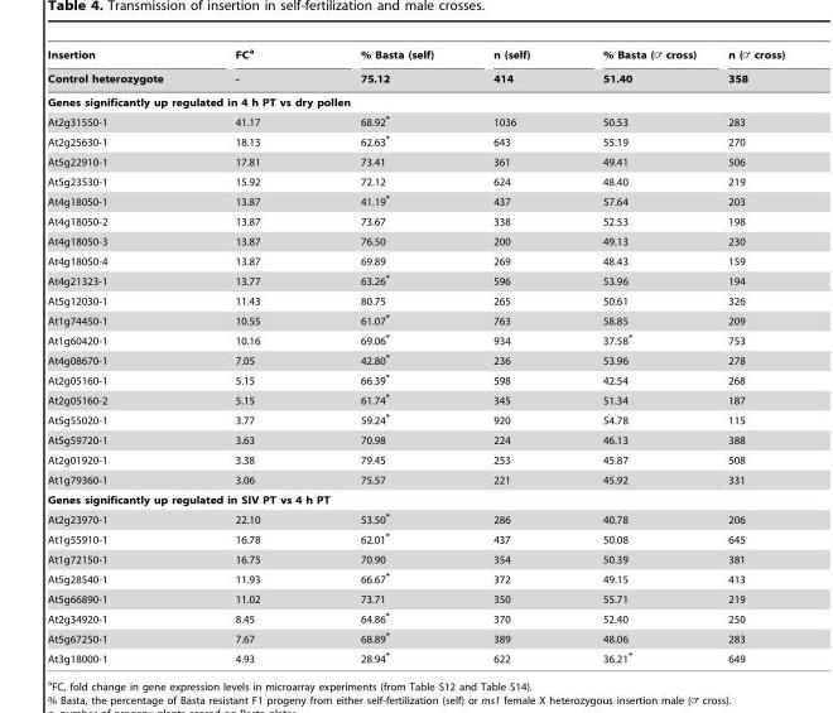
<table><thead><tr><td rowspan="2">Insertion Control heterozygote</td><td rowspan="2">FC<sup>a</sup> -</td><td rowspan="2">% Basta (self) 75.12</td><td rowspan="2">n (self) 414</td><td rowspan="2">% Basta (= cross) 51.40</td><td rowspan="2">n (= cross) 358</td></tr><tr></tr></thead><tbody><tr><td colspan="6">Genes significantly up regulated in 4 h PT vs dry pollen</td></tr><tr><td>At2g31550-1</td><td>41.17</td><td>68.92*</td><td>1036</td><td>50.53</td><td>283</td></tr><tr><td>At2g25630-1</td><td>18.13</td><td>62.63*</td><td>643</td><td>55.19</td><td>270</td></tr><tr><td>At5g22910-1</td><td>17.81</td><td>73.41</td><td>361</td><td>49.41</td><td>506</td></tr><tr><td>At5g23530-1</td><td>15.92</td><td>72.12</td><td>624</td><td>48.40</td><td>219</td></tr><tr><td>At4g18050-1</td><td>13.87</td><td>41.19*</td><td>437</td><td>57.64</td><td>203</td></tr><tr><td>At4g18050-2</td><td>13.87</td><td>73.67</td><td>338</td><td>52.53</td><td>198</td></tr><tr><td>At4g18050-3</td><td>13.87</td><td>76.50</td><td>200</td><td>49.13</td><td>230</td></tr><tr><td>At4g18050-4</td><td>13.87</td><td>69.89</td><td>269</td><td>48.43</td><td>159</td></tr><tr><td>At4g21323-1</td><td>13.77</td><td>63.26*</td><td>596</td><td>53.96</td><td>194</td></tr><tr><td>At5g12030-1</td><td>11.43</td><td>80.75</td><td>265</td><td>50.61</td><td>326</td></tr><tr><td>At1g74450-1</td><td>10.55</td><td>61.07*</td><td>763</td><td>58.85</td><td>209</td></tr><tr><td>At1g60420-1</td><td>10.16</td><td>69.06*</td><td>934</td><td>37.58*</td><td>753</td></tr><tr><td>At4g08670-1</td><td>7.05</td><td>42.80*</td><td>236</td><td>53.96</td><td>278</td></tr><tr><td>At2g05160-1</td><td>5.15</td><td>66.39*</td><td>598</td><td>42.54</td><td>268</td></tr><tr><td>At2g05160-2</td><td>5.15</td><td>61.74*</td><td>345</td><td>51.34</td><td>187</td></tr><tr><td>At5g55020-1</td><td>3.77</td><td>59.24*</td><td>920</td><td>54.78</td><td>115</td></tr><tr><td>At5g59720-1</td><td>3.63</td><td>70.98</td><td>224</td><td>46.13</td><td>388</td></tr><tr><td>At2g01920-1</td><td>3.38</td><td>79.45</td><td>253</td><td>45.87</td><td>508</td></tr><tr><td>At1g79360-1</td><td>3.06</td><td>75.57</td><td>221</td><td>45.92</td><td>331</td></tr><tr><td colspan="6">Genes significantly up regulated in SIV PT vs 4 h PT</td></tr><tr><td>At2g23970-1</td><td>22.10</td><td>53.50*</td><td>286</td><td>40.78</td><td>206</td></tr><tr><td>At1g55910-1</td><td>16.78</td><td>62.01*</td><td>437</td><td>50.08</td><td>645</td></tr><tr><td>At1g72150-1</td><td>16.75</td><td>70.90</td><td>354</td><td>50.39</td><td>381</td></tr><tr><td>At5g28540-1</td><td>11.93</td><td>66.67*</td><td>372</td><td>49.15</td><td>413</td></tr><tr><td>At5g66890-1</td><td>11.02</td><td>73.71</td><td>350</td><td>55.71</td><td>219</td></tr><tr><td>At2g34920-1</td><td>8.45</td><td>64.86*</td><td>370</td><td>52.40</td><td>250</td></tr><tr><td>At5g67250-1</td><td>7.67</td><td>68.89*</td><td>389</td><td>48.06</td><td>283</td></tr><tr><td>At3g18000-1</td><td>4.93</td><td>28.94*</td><td>622</td><td>36.21*</td><td>649</td></tr></tbody></table>